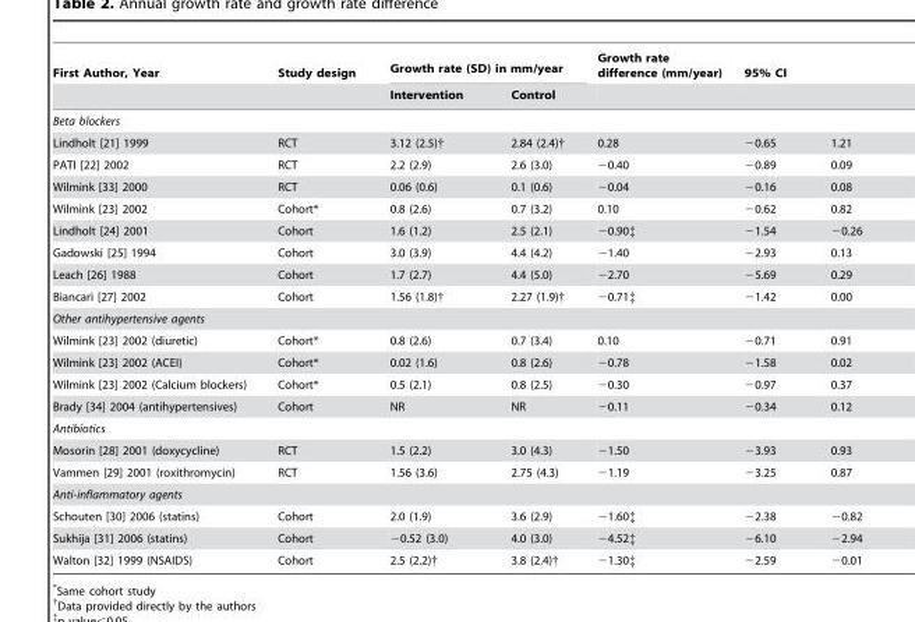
<table><thead><tr><td rowspan="2">First Author, Year</td><td rowspan="2">Study design</td><td colspan="2">Growth rate (SD) in mm/year</td><td rowspan="2">Growth rate difference (mm/year)</td><td colspan="2">95% CI</td></tr><tr><td>Intervention</td><td>Control</td><td></td><td></td></tr></thead><tbody><tr><td colspan="7">Beta blockers</td></tr><tr><td>Lindholt [21] 1999</td><td>RCT</td><td>3.12 (2.5)†</td><td>2.84 (2.4)†</td><td>0.28</td><td>−0.65</td><td>1.21</td></tr><tr><td>PATI [22] 2002</td><td>RCT</td><td>2.2 (2.9)</td><td>2.6 (3.0)</td><td>−0.40</td><td>−0.89</td><td>0.09</td></tr><tr><td>Wilmink [33] 2000</td><td>RCT</td><td>0.06 (0.6)</td><td>0.1 (0.6)</td><td>−0.04</td><td>−0.16</td><td>0.08</td></tr><tr><td>Wilmink [23] 2002</td><td>Cohort*</td><td>0.8 (2.6)</td><td>0.7 (3.2)</td><td>0.10</td><td>−0.62</td><td>0.82</td></tr><tr><td>Lindholt [24] 2001</td><td>Cohort</td><td>1.6 (1.2)</td><td>2.5 (2.1)</td><td>−0.90‡</td><td>−1.54</td><td>−0.26</td></tr><tr><td>Gadowski [25] 1994</td><td>Cohort</td><td>3.0 (3.9)</td><td>4.4 (4.2)</td><td>−1.40</td><td>−2.93</td><td>0.13</td></tr><tr><td>Leach [26] 1988</td><td>Cohort</td><td>1.7 (2.7)</td><td>4.4 (5.0)</td><td>−2.70</td><td>−5.69</td><td>0.29</td></tr><tr><td>Biancari [27] 2002</td><td>Cohort</td><td>1.56 (1.8)†</td><td>2.27 (1.9)†</td><td>−0.71‡</td><td>−1.42</td><td>0.00</td></tr><tr><td colspan="7">Other antihypertensive agents</td></tr><tr><td>Wilmink [23] 2002 (diuretic)</td><td>Cohort*</td><td>0.8 (2.6)</td><td>0.7 (3.4)</td><td>0.10</td><td>−0.71</td><td>0.91</td></tr><tr><td>Wilmink [23] 2002 (ACEI)</td><td>Cohort*</td><td>0.02 (1.6)</td><td>0.8 (2.6)</td><td>−0.78</td><td>−1.58</td><td>0.02</td></tr><tr><td>Wilmink [23] 2002 (Calcium blockers)</td><td>Cohort*</td><td>0.5 (2.1)</td><td>0.8 (2.5)</td><td>−0.30</td><td>−0.97</td><td>0.37</td></tr><tr><td>Brady [34] 2004 (antihypertensives)</td><td>Cohort</td><td>NR</td><td>NR</td><td>−0.11</td><td>−0.34</td><td>0.12</td></tr><tr><td colspan="7">Antibiotics</td></tr><tr><td>Mosorin [28] 2001 (doxycycline)</td><td>RCT</td><td>1.5 (2.2)</td><td>3.0 (4.3)</td><td>−1.50</td><td>−3.93</td><td>0.93</td></tr><tr><td>Vammen [29] 2001 (roxithromycin)</td><td>RCT</td><td>1.56 (3.6)</td><td>2.75 (4.3)</td><td>−1.19</td><td>−3.25</td><td>0.87</td></tr><tr><td colspan="7">Anti-inflammatory agents</td></tr><tr><td>Schouten [30] 2006 (statins)</td><td>Cohort</td><td>2.0 (1.9)</td><td>3.6 (2.9)</td><td>−1.60‡</td><td>−2.38</td><td>−0.82</td></tr><tr><td>Sukhija [31] 2006 (statins)</td><td>Cohort</td><td>−0.52 (3.0)</td><td>4.0 (3.0)</td><td>−4.52‡</td><td>−6.10</td><td>−2.94</td></tr><tr><td>Walton [32] 1999 (NSAIDS)</td><td>Cohort</td><td>2.5 (2.2)†</td><td>3.8 (2.4)†</td><td>−1.30‡</td><td>−2.59</td><td>−0.01</td></tr></tbody></table>